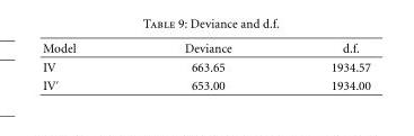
<table><thead><tr><td>Model</td><td>Deviance</td><td>d.f.</td></tr></thead><tbody><tr><td>IV</td><td>663.65</td><td>1934.57</td></tr><tr><td>IV′</td><td>653.00</td><td>1934.00</td></tr></tbody></table>